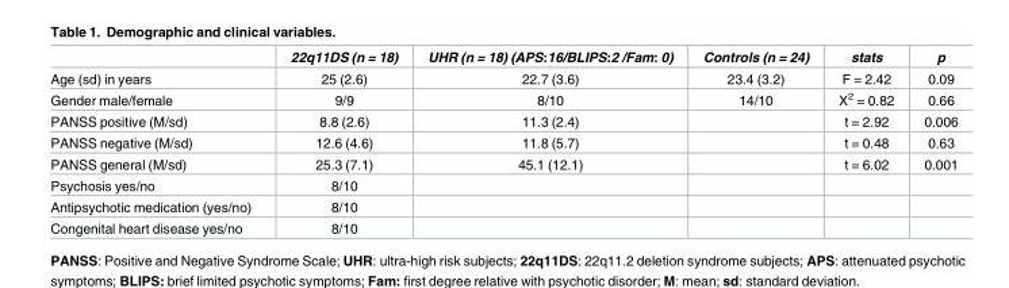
<table><thead><tr><td></td><td>22q11DS (n = 18)</td><td>UHR (n = 18) (APS:16/BLIPS:2 /Fam: 0)</td><td>Controls (n = 24)</td><td>stats</td><td>p</td></tr></thead><tbody><tr><td>Age (sd) in years</td><td>25 (2.6)</td><td>22.7 (3.6)</td><td>23.4 (3.2)</td><td>F = 2.42</td><td>0.09</td></tr><tr><td>Gender male/female</td><td>9/9</td><td>8/10</td><td>14/10</td><td>X<sup>2</sup> = 0.82</td><td>0.66</td></tr><tr><td>PANSS positive (M/sd)</td><td>8.8 (2.6)</td><td>11.3 (2.4)</td><td></td><td>t = 2.92</td><td>0.006</td></tr><tr><td>PANSS negative (M/sd)</td><td>12.6 (4.6)</td><td>11.8 (5.7)</td><td></td><td>t = 0.48</td><td>0.63</td></tr><tr><td>PANSS general (M/sd)</td><td>25.3 (7.1)</td><td>45.1 (12.1)</td><td></td><td>t = 6.02</td><td>0.001</td></tr><tr><td>Psychosis yes/no</td><td>8/10</td><td></td><td></td><td></td><td></td></tr><tr><td>Antipsychotic medication (yes/no)</td><td>8/10</td><td></td><td></td><td></td><td></td></tr><tr><td>Congenital heart disease yes/no</td><td>8/10</td><td></td><td></td><td></td><td></td></tr></tbody></table>